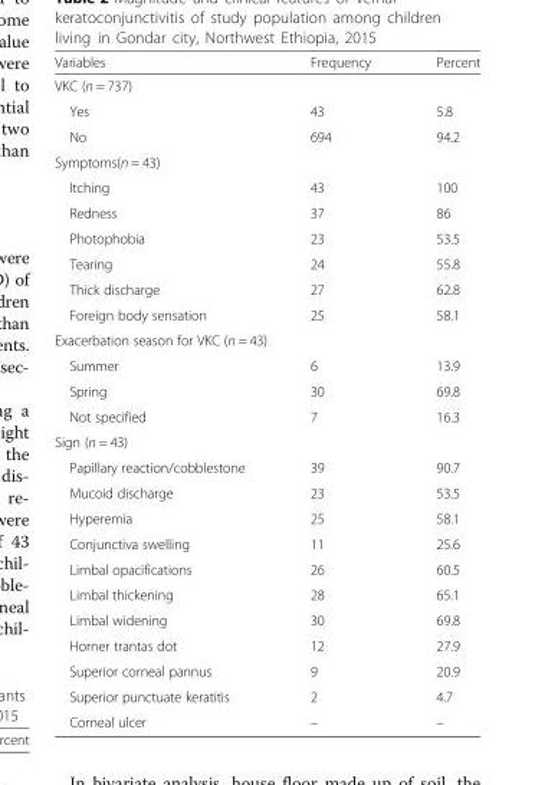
<table><thead><tr><td>Variables</td><td>Frequency</td><td>Percent</td></tr></thead><tbody><tr><td colspan="3">VKC (n = 737)</td></tr><tr><td>Yes</td><td>43</td><td>5.8</td></tr><tr><td>No</td><td>694</td><td>94.2</td></tr><tr><td colspan="3">Symptoms(n = 43)</td></tr><tr><td>Itching</td><td>43</td><td>100</td></tr><tr><td>Redness</td><td>37</td><td>86</td></tr><tr><td>Photophobia</td><td>23</td><td>53.5</td></tr><tr><td>Tearing</td><td>24</td><td>55.8</td></tr><tr><td>Thick discharge</td><td>27</td><td>62.8</td></tr><tr><td>Foreign body sensation</td><td>25</td><td>58.1</td></tr><tr><td colspan="3">Exacerbation season for VKC (n = 43)</td></tr><tr><td>Summer</td><td>6</td><td>13.9</td></tr><tr><td>Spring</td><td>30</td><td>69.8</td></tr><tr><td>Not specified</td><td>7</td><td>16.3</td></tr><tr><td colspan="3">Sign (n = 43)</td></tr><tr><td>Papillary reaction/cobblestone</td><td>39</td><td>90.7</td></tr><tr><td>Mucoid discharge</td><td>23</td><td>53.5</td></tr><tr><td>Hyperemia</td><td>25</td><td>58.1</td></tr><tr><td>Conjunctiva swelling</td><td>11</td><td>25.6</td></tr><tr><td>Limbal opacifications</td><td>26</td><td>60.5</td></tr><tr><td>Limbal thickening</td><td>28</td><td>65.1</td></tr><tr><td>Limbal widening</td><td>30</td><td>69.8</td></tr><tr><td>Horner trantas dot</td><td>12</td><td>27.9</td></tr><tr><td>Superior corneal pannus</td><td>9</td><td>20.9</td></tr><tr><td>Superior punctuate keratitis</td><td>2</td><td>4.7</td></tr><tr><td>Corneal ulcer</td><td>–</td><td>–</td></tr></tbody></table>